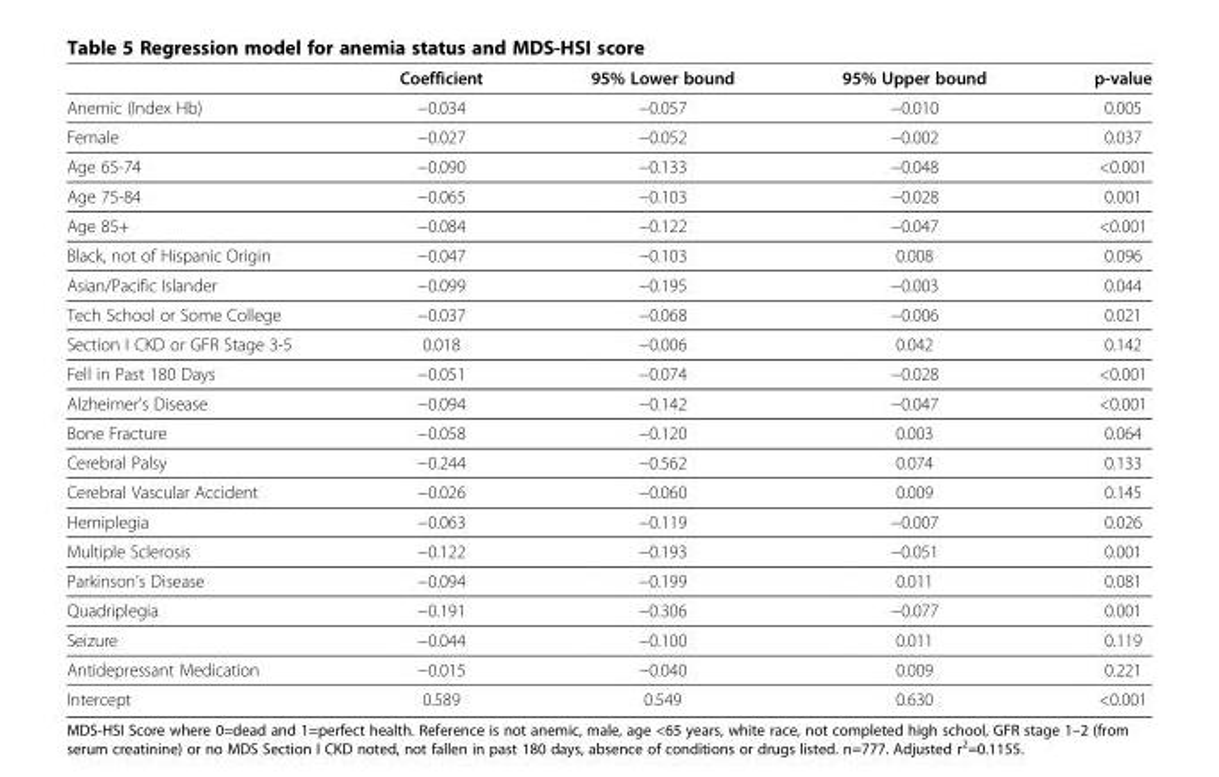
<table><thead><tr><td></td><td>Coefficient</td><td>95% Lower bound</td><td>95% Upper bound</td><td>p-value</td></tr></thead><tbody><tr><td>Anemic (Index Hb)</td><td>−0.034</td><td>−0.057</td><td>−0.010</td><td>0.005</td></tr><tr><td>Female</td><td>−0.027</td><td>−0.052</td><td>−0.002</td><td>0.037</td></tr><tr><td>Age 65-74</td><td>−0.090</td><td>−0.133</td><td>−0.048</td><td>&lt;0.001</td></tr><tr><td>Age 75-84</td><td>−0.065</td><td>−0.103</td><td>−0.028</td><td>0.001</td></tr><tr><td>Age 85+</td><td>−0.084</td><td>−0.122</td><td>−0.047</td><td>&lt;0.001</td></tr><tr><td>Black, not of Hispanic Origin</td><td>−0.047</td><td>−0.103</td><td>0.008</td><td>0.096</td></tr><tr><td>Asian/Pacific Islander</td><td>−0.099</td><td>−0.195</td><td>−0.003</td><td>0.044</td></tr><tr><td>Tech School or Some College</td><td>−0.037</td><td>−0.068</td><td>−0.006</td><td>0.021</td></tr><tr><td>Section I CKD or GFR Stage 3-5</td><td>0.018</td><td>−0.006</td><td>0.042</td><td>0.142</td></tr><tr><td>Fell in Past 180 Days</td><td>−0.051</td><td>−0.074</td><td>−0.028</td><td>&lt;0.001</td></tr><tr><td>Alzheimer&#x27;s Disease</td><td>−0.094</td><td>−0.142</td><td>−0.047</td><td>&lt;0.001</td></tr><tr><td>Bone Fracture</td><td>−0.058</td><td>−0.120</td><td>0.003</td><td>0.064</td></tr><tr><td>Cerebral Palsy</td><td>−0.244</td><td>−0.562</td><td>0.074</td><td>0.133</td></tr><tr><td>Cerebral Vascular Accident</td><td>−0.026</td><td>−0.060</td><td>0.009</td><td>0.145</td></tr><tr><td>Hemiplegia</td><td>−0.063</td><td>−0.119</td><td>−0.007</td><td>0.026</td></tr><tr><td>Multiple Sclerosis</td><td>−0.122</td><td>−0.193</td><td>−0.051</td><td>0.001</td></tr><tr><td>Parkinson&#x27;s Disease</td><td>−0.094</td><td>−0.199</td><td>0.011</td><td>0.081</td></tr><tr><td>Quadriplegia</td><td>−0.191</td><td>−0.306</td><td>−0.077</td><td>0.001</td></tr><tr><td>Seizure</td><td>−0.044</td><td>−0.100</td><td>0.011</td><td>0.119</td></tr><tr><td>Antidepressant Medication</td><td>−0.015</td><td>−0.040</td><td>0.009</td><td>0.221</td></tr><tr><td>Intercept</td><td>0.589</td><td>0.549</td><td>0.630</td><td>&lt;0.001</td></tr></tbody></table>